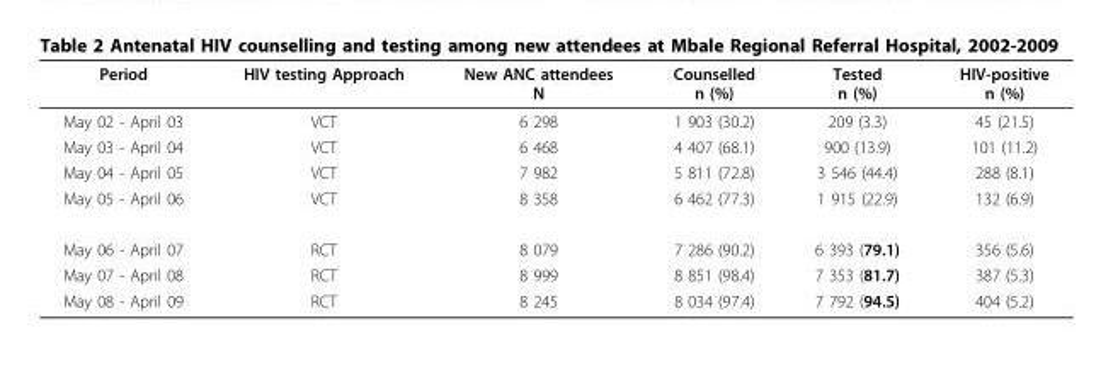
<table><thead><tr><td>Period</td><td>HIV testing Approach</td><td>New ANC attendees N</td><td>Counselled n (%)</td><td>Tested n (%)</td><td>HIV-positive n (%)</td></tr></thead><tbody><tr><td>May 02 - April 03</td><td>VCT</td><td>6 298</td><td>1 903 (30.2)</td><td>209 (3.3)</td><td>45 (21.5)</td></tr><tr><td>May 03 - April 04</td><td>VCT</td><td>6 468</td><td>4 407 (68.1)</td><td>900 (13.9)</td><td>101 (11.2)</td></tr><tr><td>May 04 - April 05</td><td>VCT</td><td>7 982</td><td>5 811 (72.8)</td><td>3 546 (44.4)</td><td>288 (8.1)</td></tr><tr><td>May 05 - April 06</td><td>VCT</td><td>8 358</td><td>6 462 (77.3)</td><td>1 915 (22.9)</td><td>132 (6.9)</td></tr><tr><td>May 06 - April 07</td><td>RCT</td><td>8 079</td><td>7 286 (90.2)</td><td>6 393 (79.1)</td><td>356 (5.6)</td></tr><tr><td>May 07 - April 08</td><td>RCT</td><td>8 999</td><td>8 851 (98.4)</td><td>7 353 (81.7)</td><td>387 (5.3)</td></tr><tr><td>May 08 - April 09</td><td>RCT</td><td>8 245</td><td>8 034 (97.4)</td><td>7 792 (94.5)</td><td>404 (5.2)</td></tr></tbody></table>